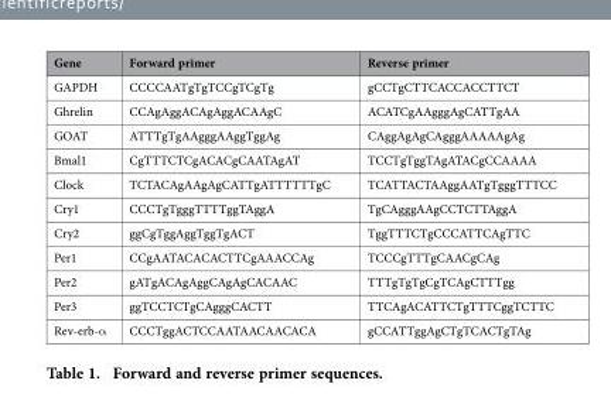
<table><thead><tr><td>Gene</td><td>Forward primer</td><td>Reverse primer</td></tr></thead><tbody><tr><td>GAPDH</td><td>CCCCAATgTgTCCgTCgTg</td><td>gCCTgCTTCACCACCTTCT</td></tr><tr><td>Ghrelin</td><td>CCAgAggACAgAggACAAgC</td><td>ACATCgAAgggAgCATTgAA</td></tr><tr><td>GOAT</td><td>ATTTgTgAAgggAAggTggAg</td><td>CAggAgAgCAgggAAAAAgAg</td></tr><tr><td>Bmal1</td><td>CgTTTCTCgACACgCAATAgAT</td><td>TCCTgTggTAgATACgCCAAAA</td></tr><tr><td>Clock</td><td>TCTACAgAAgAgCATTgATTTTTTgC</td><td>TCATTACTAAggAATgTgggTTTCC</td></tr><tr><td>Cry1</td><td>CCCTgTgggTTTTggTAggA</td><td>TgCAgggAAgCCTCTTAggA</td></tr><tr><td>Cry2</td><td>ggCgTggAggTggTgACT</td><td>TggTTTCTgCCCATTCAgTTC</td></tr><tr><td>Per1</td><td>CCgAATACACACTTCgAAACCAg</td><td>TCCCgTTTgCAACgCAg</td></tr><tr><td>Per2</td><td>gATgACAgAggCAgAgCACAAC</td><td>TTTgTgTgCgTCAgCTTTgg</td></tr><tr><td>Per3</td><td>ggTCCTCTgCAgggCACTT</td><td>TTCAgACATTCTgTTTCggTCTTC</td></tr><tr><td>Rev-erb-α</td><td>CCCTggACTCCAATAACAACACA</td><td>gCCATTggAgCTgTCACTgTAg</td></tr></tbody></table>